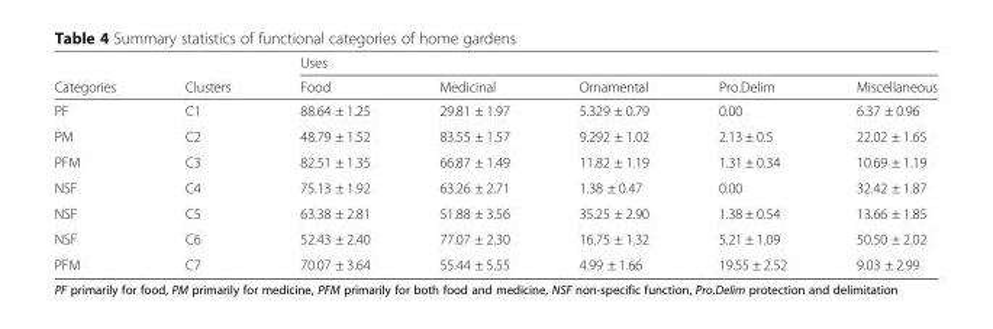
<table><thead><tr><td rowspan="2">Categories</td><td rowspan="2">Clusters</td><td colspan="5">Uses</td></tr><tr><td>Food</td><td>Medicinal</td><td>Ornamental</td><td>Pro.Delim</td><td>Miscellaneous</td></tr></thead><tbody><tr><td>PF</td><td>C1</td><td>88.64 ± 1.25</td><td>29.81 ± 1.97</td><td>5.329 ± 0.79</td><td>0.00</td><td>6.37 ± 0.96</td></tr><tr><td>PM</td><td>C2</td><td>48.79 ± 1.52</td><td>83.55 ± 1.57</td><td>9.292 ± 1.02</td><td>2.13 ± 0.5</td><td>22.02 ± 1.65</td></tr><tr><td>PFM</td><td>C3</td><td>82.51 ± 1.35</td><td>66.87 ± 1.49</td><td>11.82 ± 1.19</td><td>1.31 ± 0.34</td><td>10.69 ± 1.19</td></tr><tr><td>NSF</td><td>C4</td><td>75.13 ± 1.92</td><td>63.26 ± 2.71</td><td>1.38 ± 0.47</td><td>0.00</td><td>32.42 ± 1.87</td></tr><tr><td>NSF</td><td>C5</td><td>63.38 ± 2.81</td><td>51.88 ± 3.56</td><td>35.25 ± 2.90</td><td>1.38 ± 0.54</td><td>13.66 ± 1.85</td></tr><tr><td>NSF</td><td>C6</td><td>52.43 ± 2.40</td><td>77.07 ± 2.30</td><td>16.75 ± 1.32</td><td>5.21 ± 1.09</td><td>50.50 ± 2.02</td></tr><tr><td>PFM</td><td>C7</td><td>70.07 ± 3.64</td><td>55.44 ± 5.55</td><td>4.99 ± 1.66</td><td>19.55 ± 2.52</td><td>9.03 ± 2.99</td></tr></tbody></table>